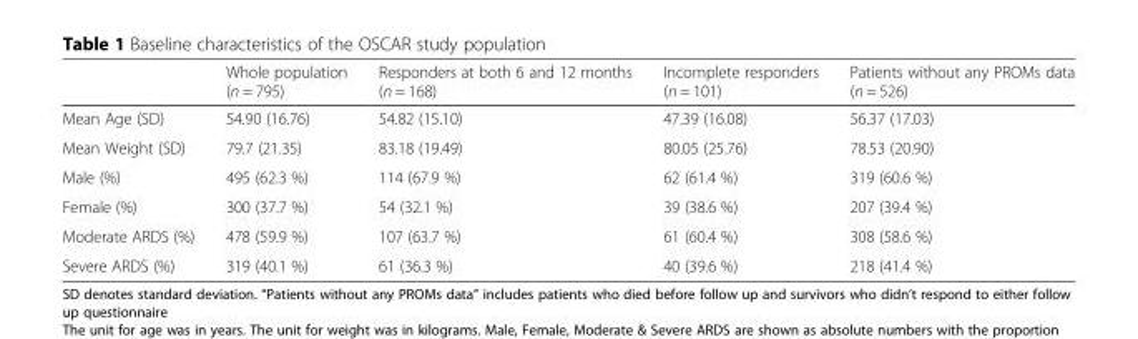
<table><thead><tr><td></td><td>Whole population (n = 795)</td><td>Responders at both 6 and 12 months (n = 168)</td><td>Incomplete responders (n = 101)</td><td>Patients without any PROMs data (n = 526)</td></tr></thead><tbody><tr><td>Mean Age (SD)</td><td>54.90 (16.76)</td><td>54.82 (15.10)</td><td>47.39 (16.08)</td><td>56.37 (17.03)</td></tr><tr><td>Mean Weight (SD)</td><td>79.7 (21.35)</td><td>83.18 (19.49)</td><td>80.05 (25.76)</td><td>78.53 (20.90)</td></tr><tr><td>Male (%)</td><td>495 (62.3 %)</td><td>114 (67.9 %)</td><td>62 (61.4 %)</td><td>319 (60.6 %)</td></tr><tr><td>Female (%)</td><td>300 (37.7 %)</td><td>54 (32.1 %)</td><td>39 (38.6 %)</td><td>207 (39.4 %)</td></tr><tr><td>Moderate ARDS (%)</td><td>478 (59.9 %)</td><td>107 (63.7 %)</td><td>61 (60.4 %)</td><td>308 (58.6 %)</td></tr><tr><td>Severe ARDS (%)</td><td>319 (40.1 %)</td><td>61 (36.3 %)</td><td>40 (39.6 %)</td><td>218 (41.4 %)</td></tr></tbody></table>